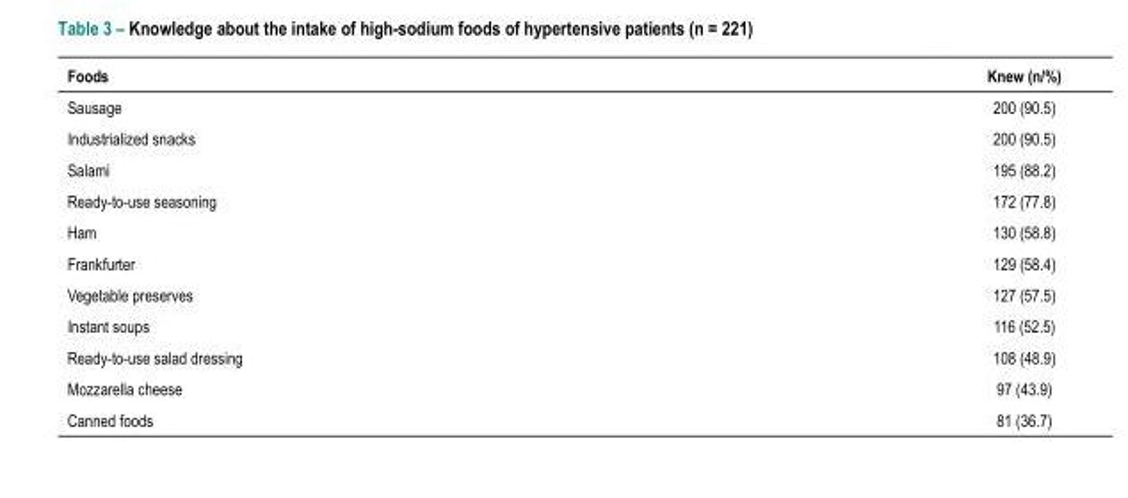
<table><thead><tr><td>Foods</td><td>Knew (n/%)</td></tr></thead><tbody><tr><td>Sausage</td><td>200 (90.5)</td></tr><tr><td>Industrialized snacks</td><td>200 (90.5)</td></tr><tr><td>Salami</td><td>195 (88.2)</td></tr><tr><td>Ready-to-use seasoning</td><td>172 (77.8)</td></tr><tr><td>Ham</td><td>130 (58.8)</td></tr><tr><td>Frankfurter</td><td>129 (58.4)</td></tr><tr><td>Vegetable preserves</td><td>127 (57.5)</td></tr><tr><td>Instant soups</td><td>116 (52.5)</td></tr><tr><td>Ready-to-use salad dressing</td><td>108 (48.9)</td></tr><tr><td>Mozzarella cheese</td><td>97 (43.9)</td></tr><tr><td>Canned foods</td><td>81 (36.7)</td></tr></tbody></table>